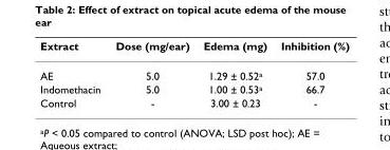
<table><thead><tr><td>Extract</td><td>Dose (mg/ear)</td><td>Edema (mg)</td><td>Inhibition (%)</td></tr></thead><tbody><tr><td>AE</td><td>5.0</td><td>1.29 ± 0.52<sup>a</sup></td><td>57.0</td></tr><tr><td>Indomethacin</td><td>5.0</td><td>1.00 ± 0.53<sup>a</sup></td><td>66.7</td></tr><tr><td>Control</td><td>-</td><td>3.00 ± 0.23</td><td>-</td></tr></tbody></table>